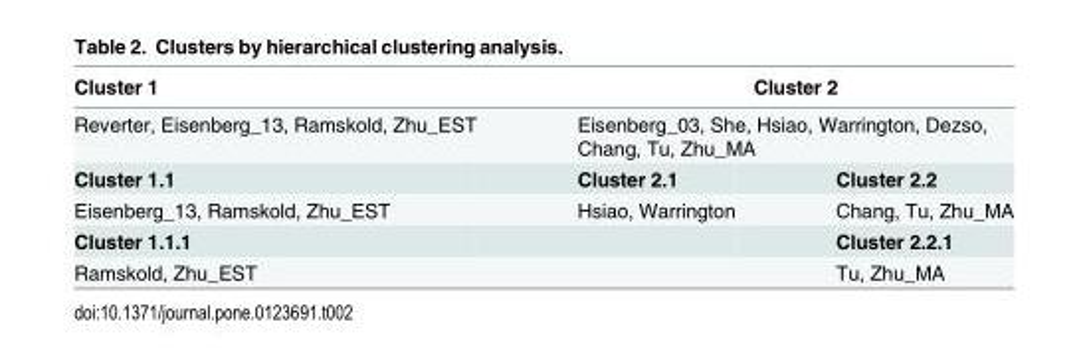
<table><thead><tr><td rowspan="3">Cluster 1 Reverter, Eisenberg_13, Ramskold, Zhu_EST Cluster 1.1</td><td rowspan="2" colspan="2">Cluster 2 Eisenberg_03, She, Hsiao, Warrington, Dezso, Chang, Tu, Zhu_MA</td></tr><tr></tr><tr><td>Cluster 2.1</td><td>Cluster 2.2</td></tr></thead><tbody><tr><td>Eisenberg_13, Ramskold, Zhu_EST</td><td>Hsiao, Warrington</td><td>Chang, Tu, Zhu_MA</td></tr><tr><td>Cluster 1.1.1</td><td></td><td>Cluster 2.2.1</td></tr><tr><td>Ramskold, Zhu_EST</td><td></td><td>Tu, Zhu_MA</td></tr></tbody></table>